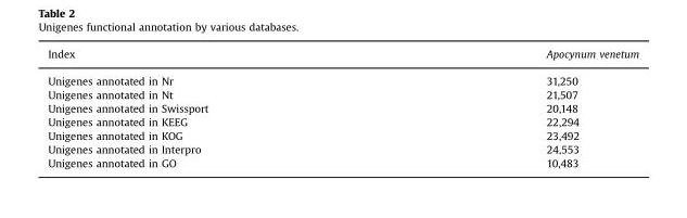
<table><thead><tr><td>Index</td><td>Apocynum venetum</td></tr></thead><tbody><tr><td>Unigenes annotated in Nr</td><td>31,250</td></tr><tr><td>Unigenes annotated in Nt</td><td>21,507</td></tr><tr><td>Unigenes annotated in Swissport</td><td>20,148</td></tr><tr><td>Unigenes annotated in KEEG</td><td>22,294</td></tr><tr><td>Unigenes annotated in KOG</td><td>23,492</td></tr><tr><td>Unigenes annotated in Interpro</td><td>24,553</td></tr><tr><td>Unigenes annotated in GO</td><td>10,483</td></tr></tbody></table>